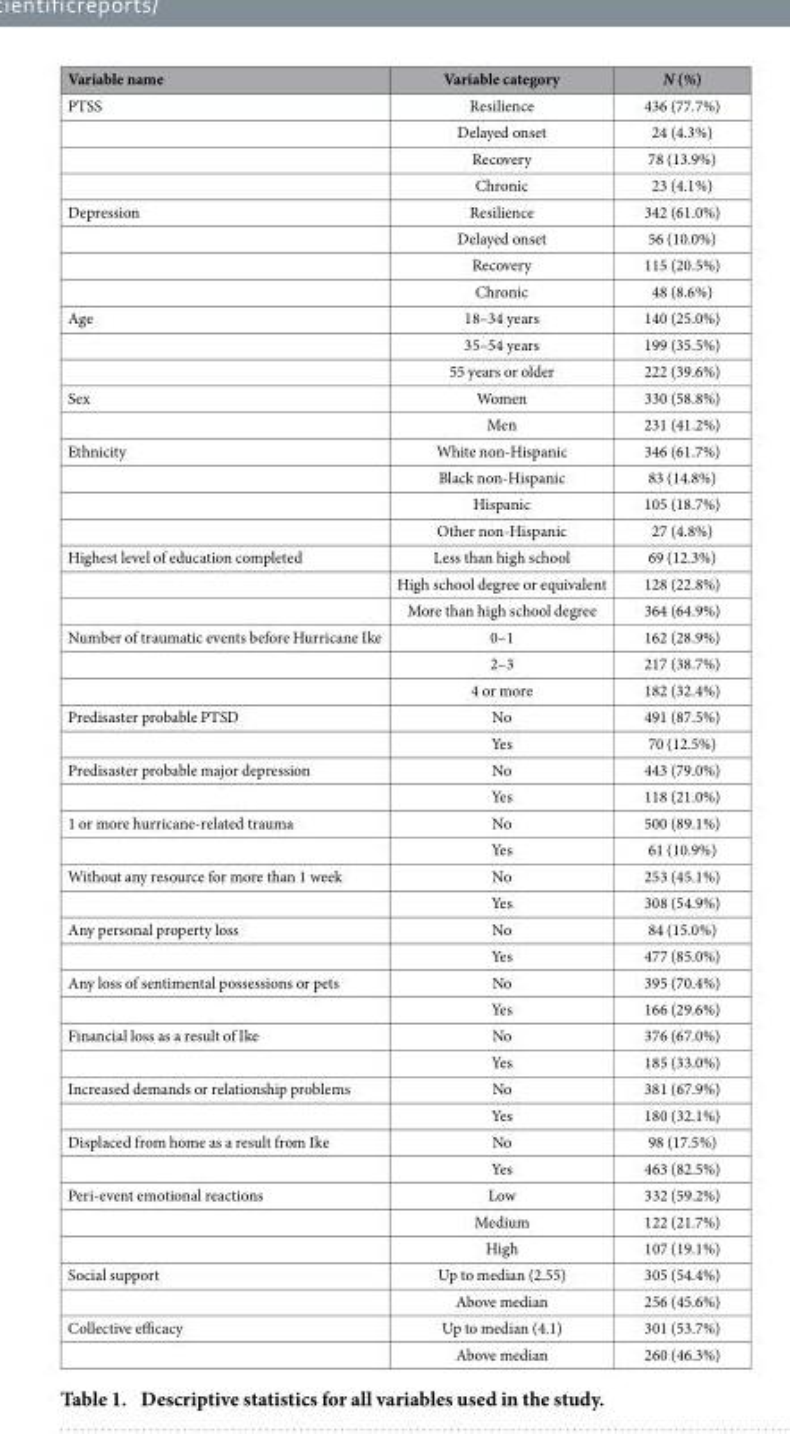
<table><thead><tr><td>Variable name</td><td>Variable category</td><td>N (%)</td></tr></thead><tbody><tr><td rowspan="4">PTSS</td><td>Resilience</td><td>436 (77.7%)</td></tr><tr><td>Delayed onset</td><td>24 (4.3%)</td></tr><tr><td>Recovery</td><td>78 (13.9%)</td></tr><tr><td>Chronic</td><td>23 (4.1%)</td></tr><tr><td rowspan="4">Depression</td><td>Resilience</td><td>342 (61.0%)</td></tr><tr><td>Delayed onset</td><td>56 (10.0%)</td></tr><tr><td>Recovery</td><td>115 (20.5%)</td></tr><tr><td>Chronic</td><td>48 (8.6%)</td></tr><tr><td rowspan="3">Age</td><td>18–34 years</td><td>140 (25.0%)</td></tr><tr><td>35–54 years</td><td>199 (35.5%)</td></tr><tr><td>55 years or older</td><td>222 (39.6%)</td></tr><tr><td rowspan="2">Sex</td><td>Women</td><td>330 (58.8%)</td></tr><tr><td>Men</td><td>231 (41.2%)</td></tr><tr><td rowspan="4">Ethnicity</td><td>White non-Hispanic</td><td>346 (61.7%)</td></tr><tr><td>Black non-Hispanic</td><td>83 (14.8%)</td></tr><tr><td>Hispanic</td><td>105 (18.7%)</td></tr><tr><td>Other non-Hispanic</td><td>27 (4.8%)</td></tr><tr><td rowspan="3">Highest level of education completed</td><td>Less than high school</td><td>69 (12.3%)</td></tr><tr><td>High school degree or equivalent</td><td>128 (22.8%)</td></tr><tr><td>More than high school degree</td><td>364 (64.9%)</td></tr><tr><td rowspan="3">Number of traumatic events before Hurricane Ike</td><td>0–1</td><td>162 (28.9%)</td></tr><tr><td>2–3</td><td>217 (38.7%)</td></tr><tr><td>4 or more</td><td>182 (32.4%)</td></tr><tr><td rowspan="2">Predisaster probable PTSD</td><td>No</td><td>491 (87.5%)</td></tr><tr><td>Yes</td><td>70 (12.5%)</td></tr><tr><td rowspan="2">Predisaster probable major depression</td><td>No</td><td>443 (79.0%)</td></tr><tr><td>Yes</td><td>118 (21.0%)</td></tr><tr><td rowspan="2">1 or more hurricane-related trauma</td><td>No</td><td>500 (89.1%)</td></tr><tr><td>Yes</td><td>61 (10.9%)</td></tr><tr><td rowspan="2">Without any resource for more than 1 week</td><td>No</td><td>253 (45.1%)</td></tr><tr><td>Yes</td><td>308 (54.9%)</td></tr><tr><td rowspan="2">Any personal property loss</td><td>No</td><td>84 (15.0%)</td></tr><tr><td>Yes</td><td>477 (85.0%)</td></tr><tr><td rowspan="2">Any loss of sentimental possessions or pets</td><td>No</td><td>395 (70.4%)</td></tr><tr><td>Yes</td><td>166 (29.6%)</td></tr><tr><td rowspan="2">Financial loss as a result of Ike</td><td>No</td><td>376 (67.0%)</td></tr><tr><td>Yes</td><td>185 (33.0%)</td></tr><tr><td rowspan="2">Increased demands or relationship problems</td><td>No</td><td>381 (67.9%)</td></tr><tr><td>Yes</td><td>180 (32.1%)</td></tr><tr><td rowspan="2">Displaced from home as a result from Ike</td><td>No</td><td>98 (17.5%)</td></tr><tr><td>Yes</td><td>463 (82.5%)</td></tr><tr><td rowspan="3">Peri-event emotional reactions</td><td>Low</td><td>332 (59.2%)</td></tr><tr><td>Medium</td><td>122 (21.7%)</td></tr><tr><td>High</td><td>107 (19.1%)</td></tr><tr><td rowspan="2">Social support</td><td>Up to median (2.55)</td><td>305 (54.4%)</td></tr><tr><td>Above median</td><td>256 (45.6%)</td></tr><tr><td rowspan="2">Collective efficacy</td><td>Up to median (4.1)</td><td>301 (53.7%)</td></tr><tr><td>Above median</td><td>260 (46.3%)</td></tr></tbody></table>